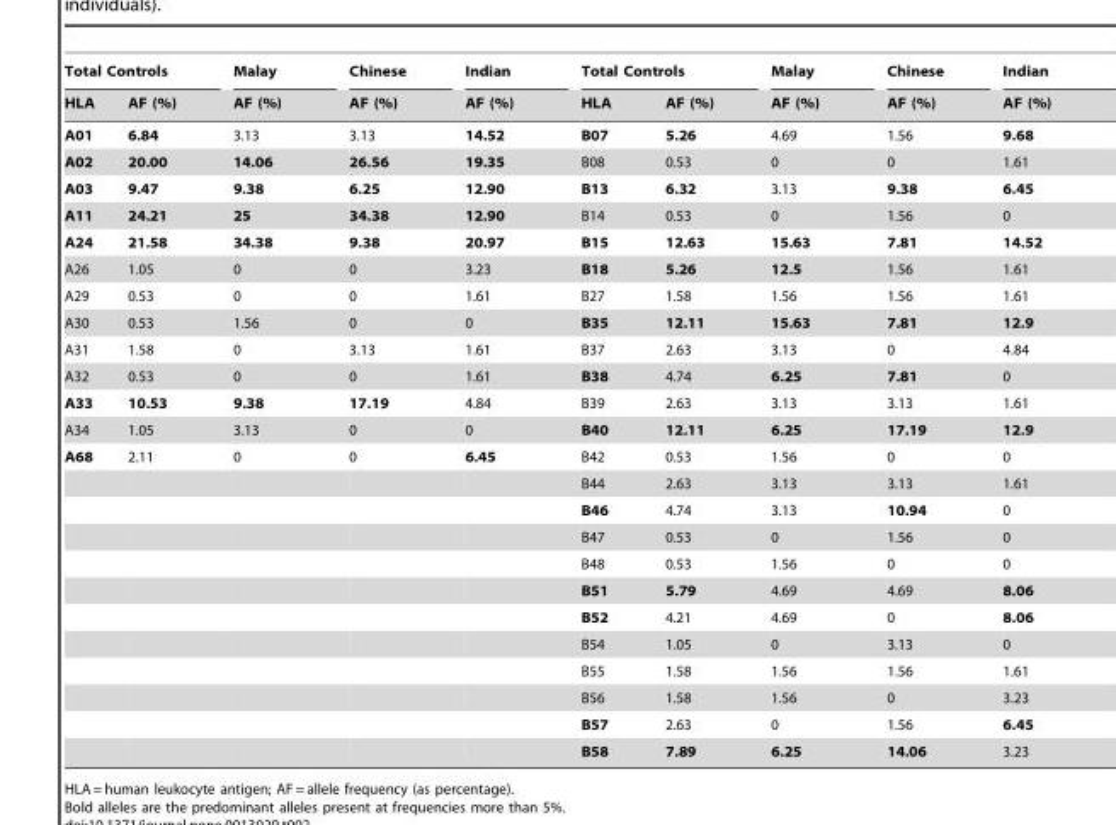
<table><thead><tr><td colspan="2">Total Controls</td><td rowspan="2">Malay AF (%)</td><td rowspan="2">Chinese AF (%)</td><td rowspan="2">Indian AF (%)</td><td colspan="2">Total Controls</td><td rowspan="2">Malay AF (%)</td><td rowspan="2">Chinese AF (%)</td><td rowspan="2">Indian AF (%)</td></tr><tr><td>HLA</td><td>AF (%)</td><td>HLA</td><td>AF (%)</td></tr></thead><tbody><tr><td>A01</td><td>6.84</td><td>3.13</td><td>3.13</td><td>14.52</td><td>B07</td><td>5.26</td><td>4.69</td><td>1.56</td><td>9.68</td></tr><tr><td>A02</td><td>20.00</td><td>14.06</td><td>26.56</td><td>19.35</td><td>B08</td><td>0.53</td><td>0</td><td>0</td><td>1.61</td></tr><tr><td>A03</td><td>9.47</td><td>9.38</td><td>6.25</td><td>12.90</td><td>B13</td><td>6.32</td><td>3.13</td><td>9.38</td><td>6.45</td></tr><tr><td>A11</td><td>24.21</td><td>25</td><td>34.38</td><td>12.90</td><td>B14</td><td>0.53</td><td>0</td><td>1.56</td><td>0</td></tr><tr><td>A24</td><td>21.58</td><td>34.38</td><td>9.38</td><td>20.97</td><td>B15</td><td>12.63</td><td>15.63</td><td>7.81</td><td>14.52</td></tr><tr><td>A26</td><td>1.05</td><td>0</td><td>0</td><td>3.23</td><td>B18</td><td>5.26</td><td>12.5</td><td>1.56</td><td>1.61</td></tr><tr><td>A29</td><td>0.53</td><td>0</td><td>0</td><td>1.61</td><td>B27</td><td>1.58</td><td>1.56</td><td>1.56</td><td>1.61</td></tr><tr><td>A30</td><td>0.53</td><td>1.56</td><td>0</td><td>0</td><td>B35</td><td>12.11</td><td>15.63</td><td>7.81</td><td>12.9</td></tr><tr><td>A31</td><td>1.58</td><td>0</td><td>3.13</td><td>1.61</td><td>B37</td><td>2.63</td><td>3.13</td><td>0</td><td>4.84</td></tr><tr><td>A32</td><td>0.53</td><td>0</td><td>0</td><td>1.61</td><td>B38</td><td>4.74</td><td>6.25</td><td>7.81</td><td>0</td></tr><tr><td>A33</td><td>10.53</td><td>9.38</td><td>17.19</td><td>4.84</td><td>B39</td><td>2.63</td><td>3.13</td><td>3.13</td><td>1.61</td></tr><tr><td>A34</td><td>1.05</td><td>3.13</td><td>0</td><td>0</td><td>B40</td><td>12.11</td><td>6.25</td><td>17.19</td><td>12.9</td></tr><tr><td rowspan="12">A68</td><td>2.11</td><td>0</td><td>0</td><td>6.45</td><td>B42</td><td>0.53</td><td>1.56</td><td>0</td><td>0</td></tr><tr><td></td><td></td><td></td><td></td><td>B44</td><td>2.63</td><td>3.13</td><td>3.13</td><td>1.61</td></tr><tr><td></td><td></td><td></td><td></td><td>B46</td><td>4.74</td><td>3.13</td><td>10.94</td><td>0</td></tr><tr><td></td><td></td><td></td><td></td><td>B47</td><td>0.53</td><td>0</td><td>1.56</td><td>0</td></tr><tr><td></td><td></td><td></td><td></td><td>B48</td><td>0.53</td><td>1.56</td><td>0</td><td>0</td></tr><tr><td></td><td></td><td></td><td></td><td>B51</td><td>5.79</td><td>4.69</td><td>4.69</td><td>8.06</td></tr><tr><td></td><td></td><td></td><td></td><td>B52</td><td>4.21</td><td>4.69</td><td>0</td><td>8.06</td></tr><tr><td></td><td></td><td></td><td></td><td>B54</td><td>1.05</td><td>0</td><td>3.13</td><td>0</td></tr><tr><td></td><td></td><td></td><td></td><td>B55</td><td>1.58</td><td>1.56</td><td>1.56</td><td>1.61</td></tr><tr><td></td><td></td><td></td><td></td><td>B56</td><td>1.58</td><td>1.56</td><td>0</td><td>3.23</td></tr><tr><td></td><td></td><td></td><td></td><td>B57</td><td>2.63</td><td>0</td><td>1.56</td><td>6.45</td></tr><tr><td></td><td></td><td></td><td></td><td>B58</td><td>7.89</td><td>6.25</td><td>14.06</td><td>3.23</td></tr></tbody></table>